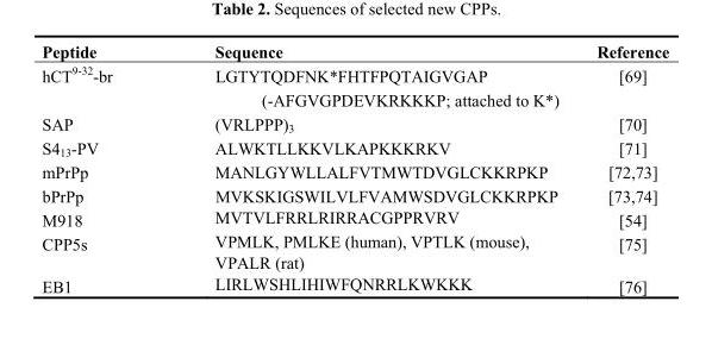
<table><thead><tr><td>Peptide</td><td>Sequence</td><td>Reference</td></tr></thead><tbody><tr><td>hCT<sup>9-32</sup>-br</td><td>LGTYTQDFNK*FHTFPQTAIGVGAP (-AFGVGPDEVKRKKKP; attached to K*)</td><td>[69]</td></tr><tr><td>SAP</td><td>(VRLPPP)<sub>3</sub></td><td>[70]</td></tr><tr><td>S4<sub>13</sub>-PV</td><td>ALWKTLLKKVLKAPKKKRKV</td><td>[71]</td></tr><tr><td>mPrPp</td><td>MANLGYWLLALFVTMWTDVGLCKKRPKP</td><td>[72,73]</td></tr><tr><td>bPrPp</td><td>MVKSKIGSWILVLFVAMWSDVGLCKKRPKP</td><td>[73,74]</td></tr><tr><td>M918</td><td>MVTVLFRRLRIRRACGPPRVRV</td><td>[54]</td></tr><tr><td>CPP5s</td><td>VPMLK, PMLKE (human), VPTLK (mouse), VPALR (rat)</td><td>[75]</td></tr><tr><td>EB1</td><td>LIRLWSHLIHIWFQNRRLKWKKK</td><td>[76]</td></tr></tbody></table>